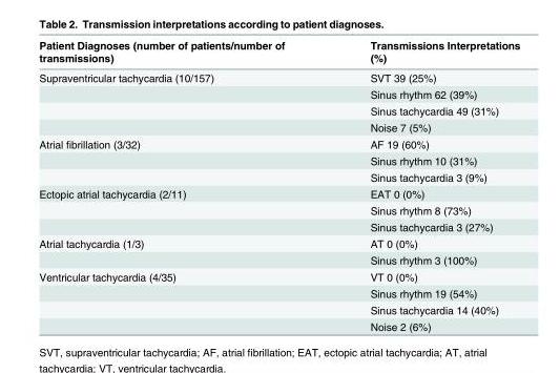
<table><thead><tr><td>Patient Diagnoses (number of patients/number of transmissions)</td><td>Transmissions Interpretations (%)</td></tr></thead><tbody><tr><td rowspan="4">Supraventricular tachycardia (10/157)</td><td>SVT 39 (25%)</td></tr><tr><td>Sinus rhythm 62 (39%)</td></tr><tr><td>Sinus tachycardia 49 (31%)</td></tr><tr><td>Noise 7 (5%)</td></tr><tr><td rowspan="3">Atrial fibrillation (3/32)</td><td>AF 19 (60%)</td></tr><tr><td>Sinus rhythm 10 (31%)</td></tr><tr><td>Sinus tachycardia 3 (9%)</td></tr><tr><td rowspan="3">Ectopic atrial tachycardia (2/11)</td><td>EAT 0 (0%)</td></tr><tr><td>Sinus rhythm 8 (73%)</td></tr><tr><td>Sinus tachycardia 3 (27%)</td></tr><tr><td rowspan="2">Atrial tachycardia (1/3)</td><td>AT 0 (0%)</td></tr><tr><td>Sinus rhythm 3 (100%)</td></tr><tr><td rowspan="4">Ventricular tachycardia (4/35)</td><td>VT 0 (0%)</td></tr><tr><td>Sinus rhythm 19 (54%)</td></tr><tr><td>Sinus tachycardia 14 (40%)</td></tr><tr><td>Noise 2 (6%)</td></tr></tbody></table>